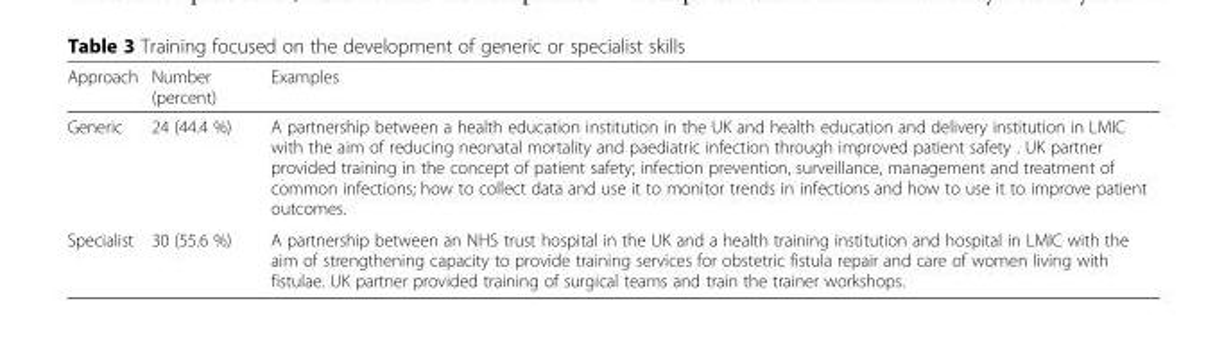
<table><thead><tr><td>Approach</td><td>Number (percent)</td><td>Examples</td></tr></thead><tbody><tr><td>Generic</td><td>24 (44.4 %)</td><td>A partnership between a health education institution in the UK and health education and delivery institution in LMIC with the aim of reducing neonatal mortality and paediatric infection through improved patient safety . UK partner provided training in the concept of patient safety; infection prevention, surveillance, management and treatment of common infections; how to collect data and use it to monitor trends in infections and how to use it to improve patient outcomes.</td></tr><tr><td>Specialist</td><td>30 (55.6 %)</td><td>A partnership between an NHS trust hospital in the UK and a health training institution and hospital in LMIC with the aim of strengthening capacity to provide training services for obstetric fistula repair and care of women living with fistulae. UK partner provided training of surgical teams and train the trainer workshops.</td></tr></tbody></table>